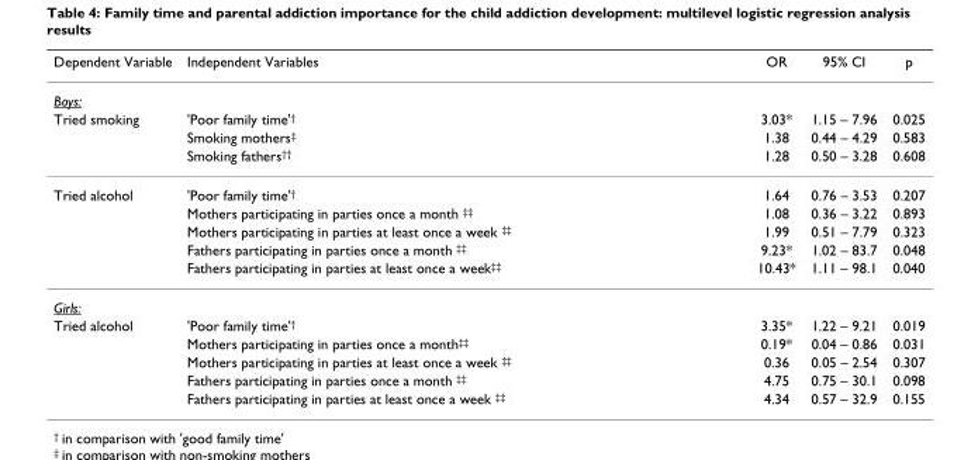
<table><thead><tr><td>Dependent Variable</td><td>Independent Variables</td><td>OR</td><td>95% CI</td><td>p</td></tr></thead><tbody><tr><td colspan="5">Boys:</td></tr><tr><td rowspan="3">Tried smoking</td><td>&#x27;Poor family time&#x27;†</td><td>3.03*</td><td>1.15 – 7.96</td><td>0.025</td></tr><tr><td>Smoking mothers‡</td><td>1.38</td><td>0.44 – 4.29</td><td>0.583</td></tr><tr><td>Smoking fathers††</td><td>1.28</td><td>0.50 – 3.28</td><td>0.608</td></tr><tr><td rowspan="5">Tried alcohol</td><td>&#x27;Poor family time&#x27;†</td><td>1.64</td><td>0.76 – 3.53</td><td>0.207</td></tr><tr><td>Mothers participating in parties once a month ‡‡</td><td>1.08</td><td>0.36 – 3.22</td><td>0.893</td></tr><tr><td>Mothers participating in parties at least once a week ‡‡</td><td>1.99</td><td>0.51 – 7.79</td><td>0.323</td></tr><tr><td>Fathers participating in parties once a month ‡‡</td><td>9.23*</td><td>1.02 – 83.7</td><td>0.048</td></tr><tr><td>Fathers participating in parties at least once a week‡‡</td><td>10.43*</td><td>1.11 – 98.1</td><td>0.040</td></tr><tr><td colspan="5">Girls:</td></tr><tr><td rowspan="5">Tried alcohol</td><td>&#x27;Poor family time&#x27;†</td><td>3.35*</td><td>1.22 – 9.21</td><td>0.019</td></tr><tr><td>Mothers participating in parties once a month‡‡</td><td>0.19*</td><td>0.04 – 0.86</td><td>0.031</td></tr><tr><td>Mothers participating in parties at least once a week ‡‡</td><td>0.36</td><td>0.05 – 2.54</td><td>0.307</td></tr><tr><td>Fathers participating in parties once a month ‡‡</td><td>4.75</td><td>0.75 – 30.1</td><td>0.098</td></tr><tr><td>Fathers participating in parties at least once a week ‡‡</td><td>4.34</td><td>0.57 – 32.9</td><td>0.155</td></tr></tbody></table>